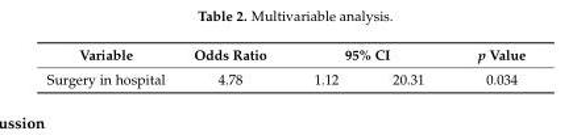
<table><thead><tr><td rowspan="2">Variable Surgery in hospital</td><td rowspan="2">Odds Ratio 4.78</td><td colspan="2">95% CI</td><td rowspan="2">p Value 0.034</td></tr><tr><td>1.12</td><td>20.31</td></tr></thead><tbody></tbody></table>